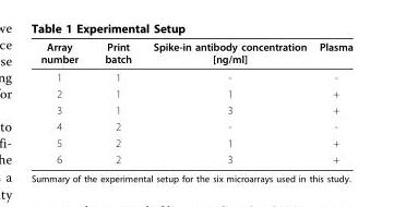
<table><thead><tr><td>Array number</td><td>Print batch</td><td>Spike-in antibody concentration [ng/ml]</td><td>Plasma</td></tr></thead><tbody><tr><td>1</td><td>1</td><td>-</td><td>-</td></tr><tr><td>2</td><td>1</td><td>1</td><td>+</td></tr><tr><td>3</td><td>1</td><td>3</td><td>+</td></tr><tr><td>4</td><td>2</td><td>-</td><td>-</td></tr><tr><td>5</td><td>2</td><td>1</td><td>+</td></tr><tr><td>6</td><td>2</td><td>3</td><td>+</td></tr></tbody></table>